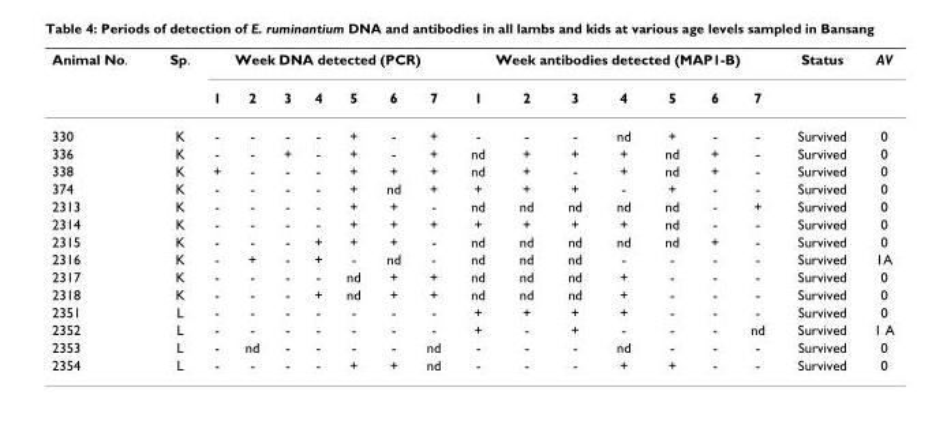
<table><thead><tr><td rowspan="2">Animal No.</td><td rowspan="2">Sp.</td><td colspan="7">Week DNA detected (PCR)</td><td colspan="7">Week antibodies detected (MAP1-B)</td><td rowspan="2">Status</td><td rowspan="2">AV</td></tr><tr><td>1</td><td>2</td><td>3</td><td>4</td><td>5</td><td>6</td><td>7</td><td>1</td><td>2</td><td>3</td><td>4</td><td>5</td><td>6</td><td>7</td></tr></thead><tbody><tr><td>330</td><td>K</td><td>-</td><td>-</td><td>-</td><td>-</td><td>+</td><td>-</td><td>+</td><td>-</td><td>-</td><td>-</td><td>nd</td><td>+</td><td>-</td><td>-</td><td>Survived</td><td>0</td></tr><tr><td>336</td><td>K</td><td>-</td><td>-</td><td>+</td><td>-</td><td>+</td><td>-</td><td>+</td><td>nd</td><td>+</td><td>+</td><td>+</td><td>nd</td><td>+</td><td>-</td><td>Survived</td><td>0</td></tr><tr><td>338</td><td>K</td><td>+</td><td>-</td><td>-</td><td>-</td><td>+</td><td>+</td><td>+</td><td>nd</td><td>+</td><td>-</td><td>+</td><td>nd</td><td>+</td><td>-</td><td>Survived</td><td>0</td></tr><tr><td>374</td><td>K</td><td>-</td><td>-</td><td>-</td><td>-</td><td>+</td><td>nd</td><td>+</td><td>+</td><td>+</td><td>+</td><td>-</td><td>+</td><td>-</td><td>-</td><td>Survived</td><td>0</td></tr><tr><td>2313</td><td>K</td><td>-</td><td>-</td><td>-</td><td>-</td><td>+</td><td>+</td><td>-</td><td>nd</td><td>nd</td><td>nd</td><td>nd</td><td>nd</td><td>-</td><td>+</td><td>Survived</td><td>0</td></tr><tr><td>2314</td><td>K</td><td>-</td><td>-</td><td>-</td><td>-</td><td>+</td><td>+</td><td>+</td><td>+</td><td>+</td><td>+</td><td>+</td><td>nd</td><td>-</td><td>-</td><td>Survived</td><td>0</td></tr><tr><td>2315</td><td>K</td><td>-</td><td>-</td><td>-</td><td>+</td><td>+</td><td>+</td><td>-</td><td>nd</td><td>nd</td><td>nd</td><td>nd</td><td>nd</td><td>+</td><td>-</td><td>Survived</td><td>0</td></tr><tr><td>2316</td><td>K</td><td>-</td><td>+</td><td>-</td><td>+</td><td>-</td><td>nd</td><td>-</td><td>nd</td><td>nd</td><td>nd</td><td>-</td><td>-</td><td>-</td><td>-</td><td>Survived</td><td>1A</td></tr><tr><td>2317</td><td>K</td><td>-</td><td>-</td><td>-</td><td>-</td><td>nd</td><td>+</td><td>+</td><td>nd</td><td>nd</td><td>nd</td><td>+</td><td>-</td><td>-</td><td>-</td><td>Survived</td><td>0</td></tr><tr><td>2318</td><td>K</td><td>-</td><td>-</td><td>-</td><td>+</td><td>nd</td><td>+</td><td>+</td><td>nd</td><td>nd</td><td>nd</td><td>+</td><td>-</td><td>-</td><td>-</td><td>Survived</td><td>0</td></tr><tr><td>2351</td><td>L</td><td>-</td><td>-</td><td>-</td><td>-</td><td>-</td><td>-</td><td>-</td><td>+</td><td>+</td><td>+</td><td>+</td><td>-</td><td>-</td><td>-</td><td>Survived</td><td>0</td></tr><tr><td>2352</td><td>L</td><td>-</td><td>-</td><td>-</td><td>-</td><td>-</td><td>-</td><td>-</td><td>+</td><td>-</td><td>+</td><td>-</td><td>-</td><td>-</td><td>nd</td><td>Survived</td><td>1 A</td></tr><tr><td>2353</td><td>L</td><td>-</td><td>nd</td><td>-</td><td>-</td><td>-</td><td>-</td><td>nd</td><td>-</td><td>-</td><td>-</td><td>nd</td><td>-</td><td>-</td><td>-</td><td>Survived</td><td>0</td></tr><tr><td>2354</td><td>L</td><td>-</td><td>-</td><td>-</td><td>-</td><td>+</td><td>+</td><td>nd</td><td>-</td><td>-</td><td>-</td><td>+</td><td>+</td><td>-</td><td>-</td><td>Survived</td><td>0</td></tr></tbody></table>